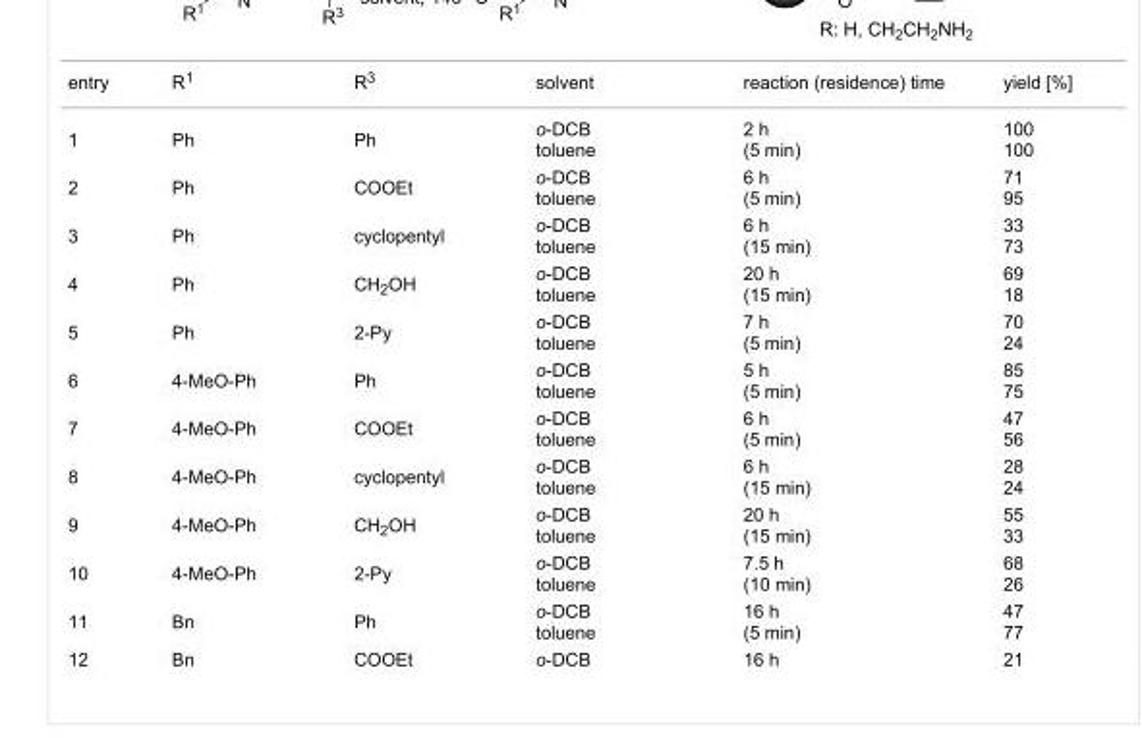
<table><tbody><tr><td>entry</td><td>R<sup>1</sup></td><td>R<sup>3</sup></td><td>solvent</td><td>reaction (residence) time</td><td>yield [%]</td></tr><tr><td>1</td><td>Ph</td><td>Ph</td><td>o-DCB toluene</td><td>2 h (5 min)</td><td>100 100</td></tr><tr><td>2</td><td>Ph</td><td>COOEt</td><td>o-DCB toluene</td><td>6 h (5 min)</td><td>71 95</td></tr><tr><td>3</td><td>Ph</td><td>cyclopentyl</td><td>o-DCB toluene</td><td>6 h (15 min)</td><td>33 73</td></tr><tr><td>4</td><td>Ph</td><td>CH<sub>2</sub>OH</td><td>o-DCB toluene</td><td>20 h (15 min)</td><td>69 18</td></tr><tr><td>5</td><td>Ph</td><td>2-Py</td><td>o-DCB toluene</td><td>7 h (5 min)</td><td>70 24</td></tr><tr><td>6</td><td>4-MeO-Ph</td><td>Ph</td><td>o-DCB toluene</td><td>5 h (5 min)</td><td>85 75</td></tr><tr><td>7</td><td>4-MeO-Ph</td><td>COOEt</td><td>o-DCB toluene</td><td>6 h (5 min)</td><td>47 56</td></tr><tr><td>8</td><td>4-MeO-Ph</td><td>cyclopentyl</td><td>o-DCB toluene</td><td>6 h (15 min)</td><td>28 24</td></tr><tr><td>9</td><td>4-MeO-Ph</td><td>CH<sub>2</sub>OH</td><td>o-DCB toluene</td><td>20 h (15 min)</td><td>55 33</td></tr><tr><td>10</td><td>4-MeO-Ph</td><td>2-Py</td><td>o-DCB toluene</td><td>7.5 h (10 min)</td><td>68 26</td></tr><tr><td>11</td><td>Bn</td><td>Ph</td><td>o-DCB toluene</td><td>16 h (5 min)</td><td>47 77</td></tr><tr><td>12</td><td>Bn</td><td>COOEt</td><td>o-DCB</td><td>16 h</td><td>21</td></tr></tbody></table>